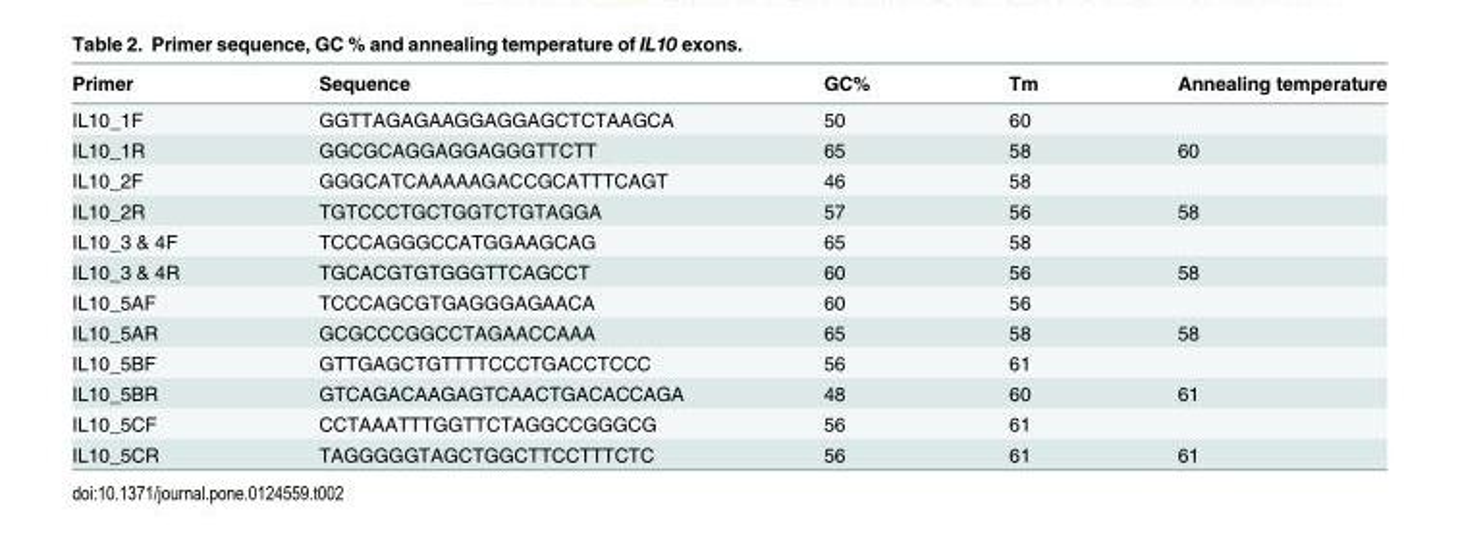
<table><thead><tr><td>Primer</td><td>Sequence</td><td>GC%</td><td>Tm</td><td>Annealing temperature</td></tr></thead><tbody><tr><td>IL10_1F</td><td>GGTTAGAGAAGGAGGAGCTCTAAGCA</td><td>50</td><td>60</td><td></td></tr><tr><td>IL10_1R</td><td>GGCGCAGGAGGAGGGTTCTT</td><td>65</td><td>58</td><td>60</td></tr><tr><td>IL10_2F</td><td>GGGCATCAAAAAGACCGCATTTCAGT</td><td>46</td><td>58</td><td></td></tr><tr><td>IL10_2R</td><td>TGTCCCTGCTGGTCTGTAGGA</td><td>57</td><td>56</td><td>58</td></tr><tr><td>IL10_3 &amp; 4F</td><td>TCCCAGGGCCATGGAAGCAG</td><td>65</td><td>58</td><td></td></tr><tr><td>IL10_3 &amp; 4R</td><td>TGCACGTGTGGGTTCAGCCT</td><td>60</td><td>56</td><td>58</td></tr><tr><td>IL10_5AF</td><td>TCCCAGCGTGAGGGAGAACA</td><td>60</td><td>56</td><td></td></tr><tr><td>IL10_5AR</td><td>GCGCCCGGCCTAGAACCAAA</td><td>65</td><td>58</td><td>58</td></tr><tr><td>IL10_5BF</td><td>GTTGAGCTGTTTTCCCTGACCTCCC</td><td>56</td><td>61</td><td></td></tr><tr><td>IL10_5BR</td><td>GTCAGACAAGAGTCAACTGACACCAGA</td><td>48</td><td>60</td><td>61</td></tr><tr><td>IL10_5CF</td><td>CCTAAATTTGGTTCTAGGCCGGGCG</td><td>56</td><td>61</td><td></td></tr><tr><td>IL10_5CR</td><td>TAGGGGGTAGCTGGCTTCCTTTCTC</td><td>56</td><td>61</td><td>61</td></tr></tbody></table>